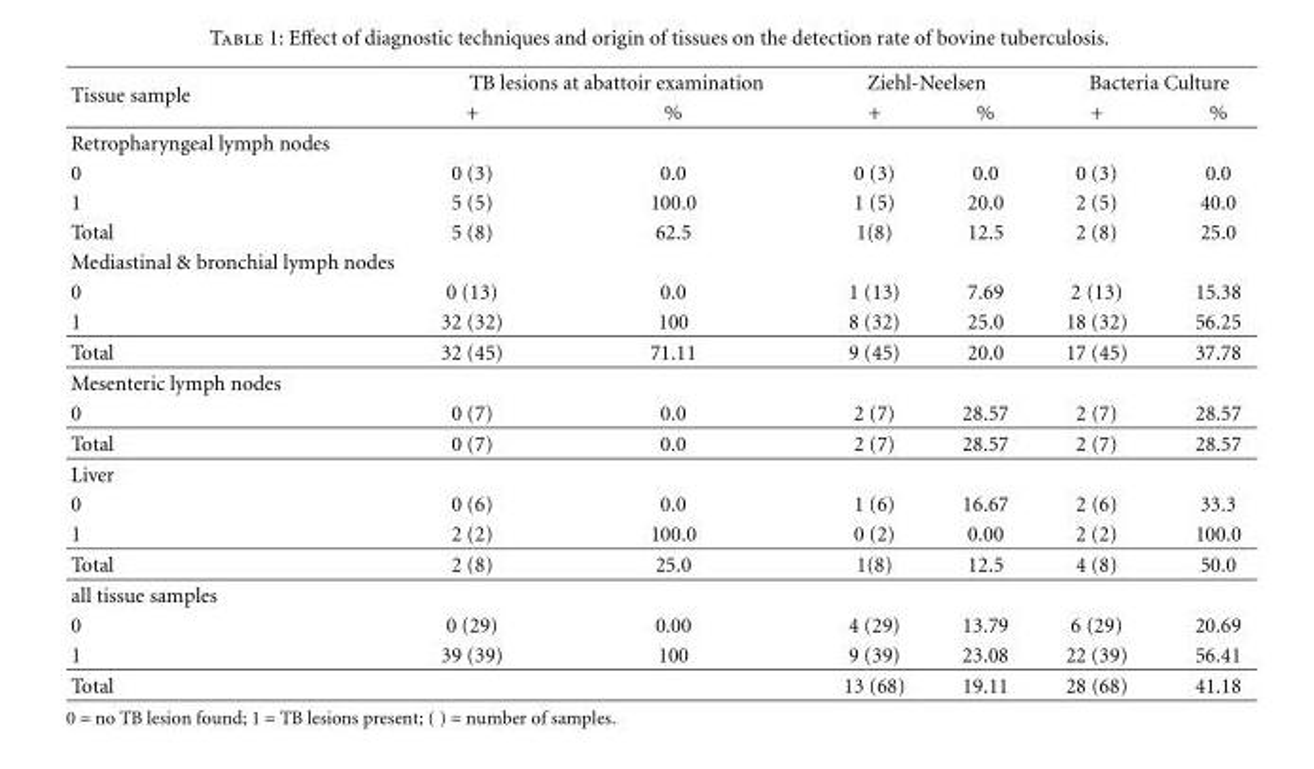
<table><thead><tr><td rowspan="2">Tissue sample</td><td colspan="2">TB lesions at abattoir examination</td><td colspan="2">Ziehl-Neelsen</td><td colspan="2">Bacteria Culture</td></tr><tr><td>+</td><td>%</td><td>+</td><td>%</td><td>+</td><td>%</td></tr></thead><tbody><tr><td colspan="7">Retropharyngeal lymph nodes</td></tr><tr><td>0</td><td>0 (3)</td><td>0.0</td><td>0 (3)</td><td>0.0</td><td>0 (3)</td><td>0.0</td></tr><tr><td>1</td><td>5 (5)</td><td>100.0</td><td>1 (5)</td><td>20.0</td><td>2 (5)</td><td>40.0</td></tr><tr><td>Total</td><td>5 (8)</td><td>62.5</td><td>1(8)</td><td>12.5</td><td>2 (8)</td><td>25.0</td></tr><tr><td colspan="7">Mediastinal &amp; bronchial lymph nodes</td></tr><tr><td>0</td><td>0 (13)</td><td>0.0</td><td>1 (13)</td><td>7.69</td><td>2 (13)</td><td>15.38</td></tr><tr><td>1</td><td>32 (32)</td><td>100</td><td>8 (32)</td><td>25.0</td><td>18 (32)</td><td>56.25</td></tr><tr><td>Total</td><td>32 (45)</td><td>71.11</td><td>9 (45)</td><td>20.0</td><td>17 (45)</td><td>37.78</td></tr><tr><td colspan="7">Mesenteric lymph nodes</td></tr><tr><td>0</td><td>0 (7)</td><td>0.0</td><td>2 (7)</td><td>28.57</td><td>2 (7)</td><td>28.57</td></tr><tr><td>Total</td><td>0 (7)</td><td>0.0</td><td>2 (7)</td><td>28.57</td><td>2 (7)</td><td>28.57</td></tr><tr><td colspan="7">Liver</td></tr><tr><td>0</td><td>0 (6)</td><td>0.0</td><td>1 (6)</td><td>16.67</td><td>2 (6)</td><td>33.3</td></tr><tr><td>1</td><td>2 (2)</td><td>100.0</td><td>0 (2)</td><td>0.00</td><td>2 (2)</td><td>100.0</td></tr><tr><td>Total</td><td>2 (8)</td><td>25.0</td><td>1(8)</td><td>12.5</td><td>4 (8)</td><td>50.0</td></tr><tr><td colspan="7">all tissue samples</td></tr><tr><td>0</td><td>0 (29)</td><td>0.00</td><td>4 (29)</td><td>13.79</td><td>6 (29)</td><td>20.69</td></tr><tr><td>1</td><td>39 (39)</td><td>100</td><td>9 (39)</td><td>23.08</td><td>22 (39)</td><td>56.41</td></tr><tr><td>Total</td><td></td><td></td><td>13 (68)</td><td>19.11</td><td>28 (68)</td><td>41.18</td></tr></tbody></table>